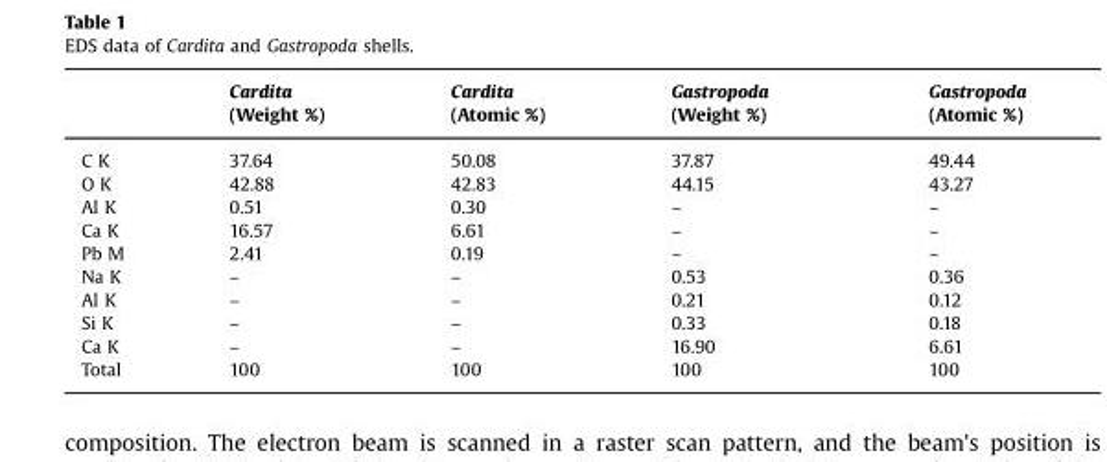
<table><thead><tr><td></td><td>Cardita (Weight %)</td><td>Cardita (Atomic %)</td><td>Gastropoda (Weight %)</td><td>Gastropoda (Atomic %)</td></tr></thead><tbody><tr><td>C K</td><td>37.64</td><td>50.08</td><td>37.87</td><td>49.44</td></tr><tr><td>O K</td><td>42.88</td><td>42.83</td><td>44.15</td><td>43.27</td></tr><tr><td>Al K</td><td>0.51</td><td>0.30</td><td>–</td><td>–</td></tr><tr><td>Ca K</td><td>16.57</td><td>6.61</td><td>–</td><td>–</td></tr><tr><td>Pb M</td><td>2.41</td><td>0.19</td><td>–</td><td>–</td></tr><tr><td>Na K</td><td>–</td><td>–</td><td>0.53</td><td>0.36</td></tr><tr><td>Al K</td><td>–</td><td>–</td><td>0.21</td><td>0.12</td></tr><tr><td>Si K</td><td>–</td><td>–</td><td>0.33</td><td>0.18</td></tr><tr><td>Ca K</td><td>–</td><td>–</td><td>16.90</td><td>6.61</td></tr><tr><td>Total</td><td>100</td><td>100</td><td>100</td><td>100</td></tr></tbody></table>